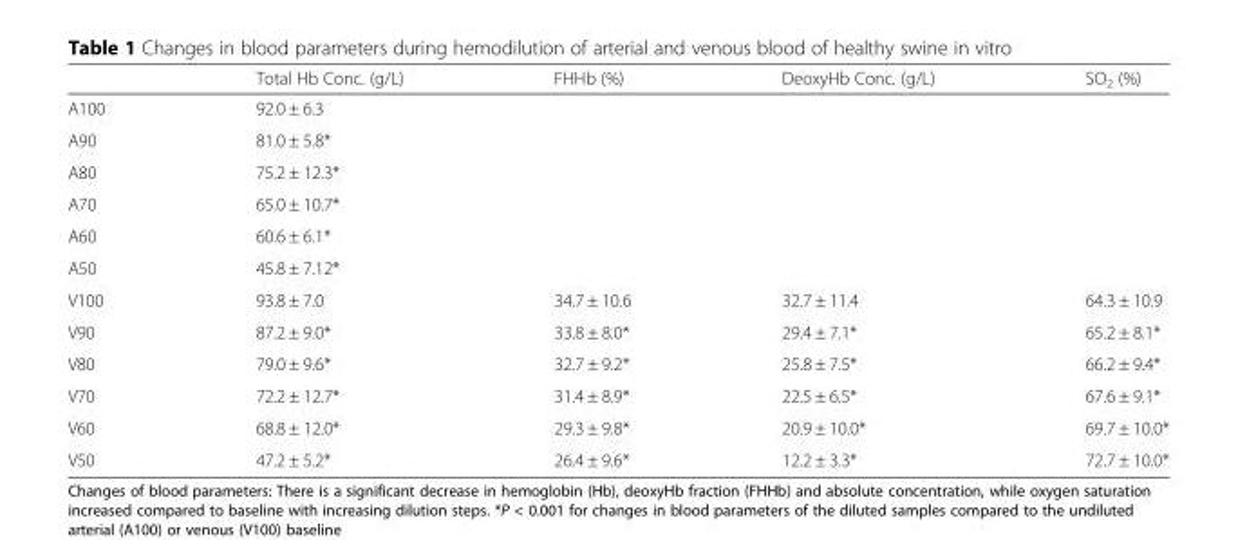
<table><thead><tr><td></td><td>Total Hb Conc. (g/L)</td><td>FHHb (%)</td><td>DeoxyHb Conc. (g/L)</td><td>SO<sub>2</sub> (%)</td></tr></thead><tbody><tr><td>A100</td><td>92.0 ± 6.3</td><td rowspan="6" colspan="3"></td></tr><tr><td>A90</td><td>81.0 ± 5.8*</td></tr><tr><td>A80</td><td>75.2 ± 12.3*</td></tr><tr><td>A70</td><td>65.0 ± 10.7*</td></tr><tr><td>A60</td><td>60.6 ± 6.1*</td></tr><tr><td>A50</td><td>45.8 ± 7.12*</td></tr><tr><td>V100</td><td>93.8 ± 7.0</td><td>34.7 ± 10.6</td><td>32.7 ± 11.4</td><td>64.3 ± 10.9</td></tr><tr><td>V90</td><td>87.2 ± 9.0*</td><td>33.8 ± 8.0*</td><td>29.4 ± 7.1*</td><td>65.2 ± 8.1*</td></tr><tr><td>V80</td><td>79.0 ± 9.6*</td><td>32.7 ± 9.2*</td><td>25.8 ± 7.5*</td><td>66.2 ± 9.4*</td></tr><tr><td>V70</td><td>72.2 ± 12.7*</td><td>31.4 ± 8.9*</td><td>22.5 ± 6.5*</td><td>67.6 ± 9.1*</td></tr><tr><td>V60</td><td>68.8 ± 12.0*</td><td>29.3 ± 9.8*</td><td>20.9 ± 10.0*</td><td>69.7 ± 10.0*</td></tr><tr><td>V50</td><td>47.2 ± 5.2*</td><td>26.4 ± 9.6*</td><td>12.2 ± 3.3*</td><td>72.7 ± 10.0*</td></tr></tbody></table>